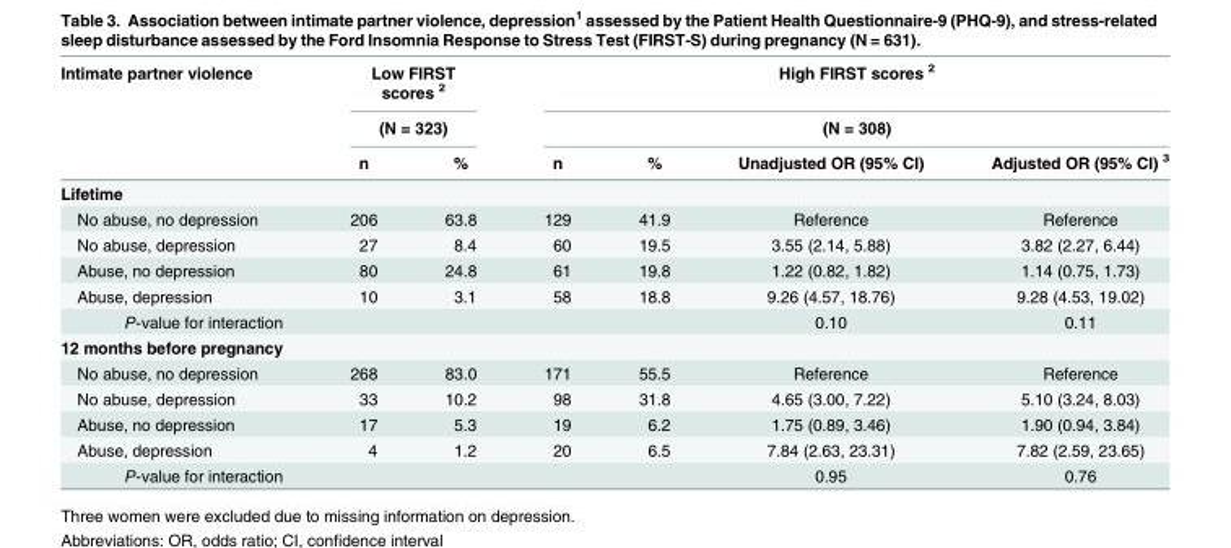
<table><thead><tr><td rowspan="3">Intimate partner violence</td><td rowspan="2" colspan="2">Low FIRST scores <sup>2</sup> (N = 323)</td><td rowspan="2" colspan="4">High FIRST scores <sup>2</sup> (N = 308)</td></tr><tr></tr><tr><td>n</td><td>%</td><td>n</td><td>%</td><td>Unadjusted OR (95% CI)</td><td>Adjusted OR (95% CI) <sup>3</sup></td></tr></thead><tbody><tr><td colspan="7">Lifetime</td></tr><tr><td>No abuse, no depression</td><td>206</td><td>63.8</td><td>129</td><td>41.9</td><td>Reference</td><td>Reference</td></tr><tr><td>No abuse, depression</td><td>27</td><td>8.4</td><td>60</td><td>19.5</td><td>3.55 (2.14, 5.88)</td><td>3.82 (2.27, 6.44)</td></tr><tr><td>Abuse, no depression</td><td>80</td><td>24.8</td><td>61</td><td>19.8</td><td>1.22 (0.82, 1.82)</td><td>1.14 (0.75, 1.73)</td></tr><tr><td>Abuse, depression</td><td>10</td><td>3.1</td><td>58</td><td>18.8</td><td>9.26 (4.57, 18.76)</td><td>9.28 (4.53, 19.02)</td></tr><tr><td>P-value for interaction</td><td></td><td></td><td></td><td></td><td>0.10</td><td>0.11</td></tr><tr><td colspan="7">12 months before pregnancy</td></tr><tr><td>No abuse, no depression</td><td>268</td><td>83.0</td><td>171</td><td>55.5</td><td>Reference</td><td>Reference</td></tr><tr><td>No abuse, depression</td><td>33</td><td>10.2</td><td>98</td><td>31.8</td><td>4.65 (3.00, 7.22)</td><td>5.10 (3.24, 8.03)</td></tr><tr><td>Abuse, no depression</td><td>17</td><td>5.3</td><td>19</td><td>6.2</td><td>1.75 (0.89, 3.46)</td><td>1.90 (0.94, 3.84)</td></tr><tr><td>Abuse, depression</td><td>4</td><td>1.2</td><td>20</td><td>6.5</td><td>7.84 (2.63, 23.31)</td><td>7.82 (2.59, 23.65)</td></tr><tr><td>P-value for interaction</td><td></td><td></td><td></td><td></td><td>0.95</td><td>0.76</td></tr></tbody></table>